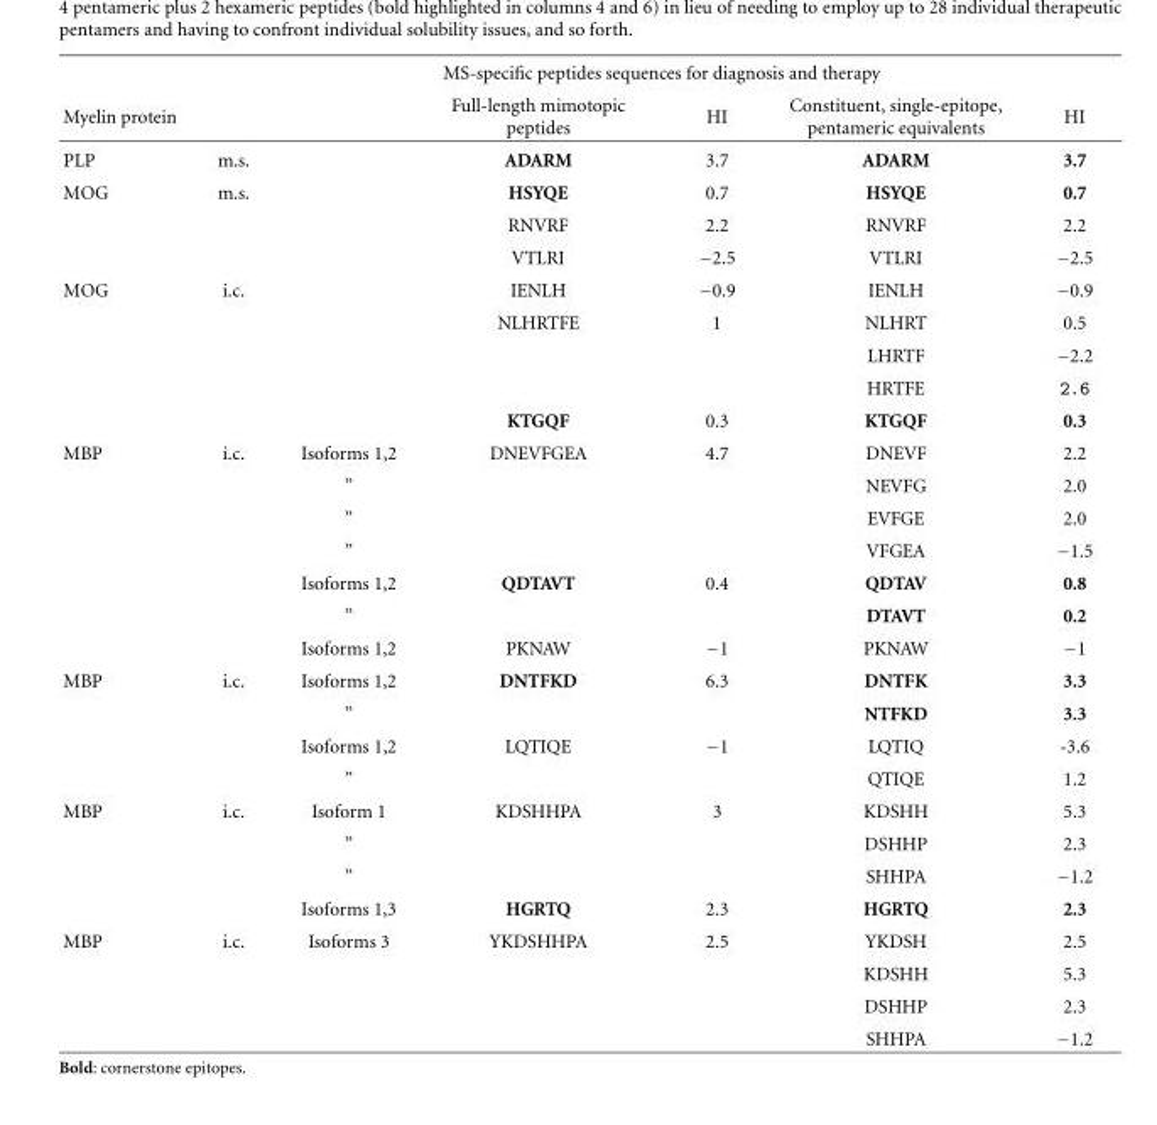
<table><thead><tr><td rowspan="2">Myelin protein</td><td colspan="6">MS-specific peptides sequences for diagnosis and therapy</td></tr><tr><td></td><td></td><td>Full-length mimotopic peptides</td><td>HI</td><td>Constituent, single-epitope, pentameric equivalents</td><td>HI</td></tr></thead><tbody><tr><td>PLP</td><td>m.s.</td><td></td><td>ADARM</td><td>3.7</td><td>ADARM</td><td>3.7</td></tr><tr><td rowspan="3">MOG</td><td>m.s.</td><td></td><td>HSYQE</td><td>0.7</td><td>HSYQE</td><td>0.7</td></tr><tr><td></td><td></td><td>RNVRF</td><td>2.2</td><td>RNVRF</td><td>2.2</td></tr><tr><td></td><td></td><td>VTLRI</td><td>−2.5</td><td>VTLRI</td><td>−2.5</td></tr><tr><td rowspan="5">MOG</td><td>i.c.</td><td></td><td>IENLH</td><td>−0.9</td><td>IENLH</td><td>−0.9</td></tr><tr><td></td><td></td><td>NLHRTFE</td><td>1</td><td>NLHRT</td><td>0.5</td></tr><tr><td></td><td></td><td></td><td></td><td>LHRTF</td><td>−2.2</td></tr><tr><td></td><td></td><td></td><td></td><td>HRTFE</td><td>2.6</td></tr><tr><td></td><td></td><td>KTGQF</td><td>0.3</td><td>KTGQF</td><td>0.3</td></tr><tr><td rowspan="7">MBP</td><td>i.c.</td><td>Isoforms 1,2</td><td>DNEVFGEA</td><td>4.7</td><td>DNEVF</td><td>2.2</td></tr><tr><td></td><td>”</td><td></td><td></td><td>NEVFG</td><td>2.0</td></tr><tr><td></td><td>”</td><td></td><td></td><td>EVFGE</td><td>2.0</td></tr><tr><td></td><td>”</td><td></td><td></td><td>VFGEA</td><td>−1.5</td></tr><tr><td></td><td>Isoforms 1,2</td><td>QDTAVT</td><td>0.4</td><td>QDTAV</td><td>0.8</td></tr><tr><td></td><td>”</td><td></td><td></td><td>DTAVT</td><td>0.2</td></tr><tr><td></td><td>Isoforms 1,2</td><td>PKNAW</td><td>−1</td><td>PKNAW</td><td>−1</td></tr><tr><td rowspan="4">MBP</td><td>i.c.</td><td>Isoforms 1,2</td><td>DNTFKD</td><td>6.3</td><td>DNTFK</td><td>3.3</td></tr><tr><td></td><td>”</td><td></td><td></td><td>NTFKD</td><td>3.3</td></tr><tr><td></td><td>Isoforms 1,2</td><td>LQTIQE</td><td>−1</td><td>LQTIQ</td><td>-3.6</td></tr><tr><td></td><td>”</td><td></td><td></td><td>QTIQE</td><td>1.2</td></tr><tr><td rowspan="4">MBP</td><td>i.c.</td><td>Isoform 1</td><td>KDSHHPA</td><td>3</td><td>KDSHH</td><td>5.3</td></tr><tr><td></td><td>”</td><td></td><td></td><td>DSHHP</td><td>2.3</td></tr><tr><td></td><td>”</td><td></td><td></td><td>SHHPA</td><td>−1.2</td></tr><tr><td></td><td>Isoforms 1,3</td><td>HGRTQ</td><td>2.3</td><td>HGRTQ</td><td>2.3</td></tr><tr><td rowspan="4">MBP</td><td>i.c.</td><td>Isoforms 3</td><td>YKDSHHPA</td><td>2.5</td><td>YKDSH</td><td>2.5</td></tr><tr><td></td><td></td><td></td><td></td><td>KDSHH</td><td>5.3</td></tr><tr><td></td><td></td><td></td><td></td><td>DSHHP</td><td>2.3</td></tr><tr><td></td><td></td><td></td><td></td><td>SHHPA</td><td>−1.2</td></tr></tbody></table>